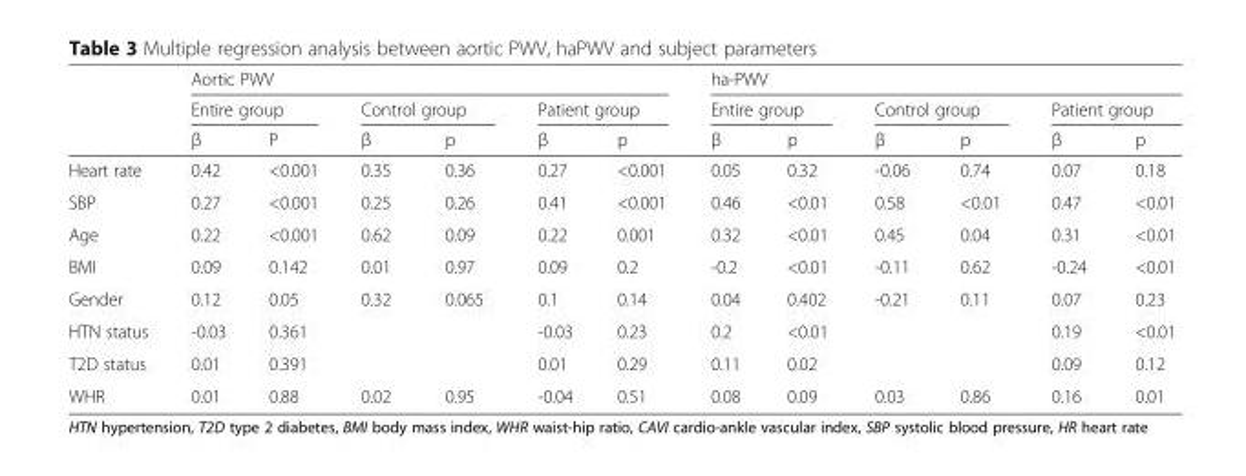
<table><thead><tr><td rowspan="3"></td><td colspan="6">Aortic PWV</td><td colspan="6">ha-PWV</td></tr><tr><td colspan="2">Entire group</td><td colspan="2">Control group</td><td colspan="2">Patient group</td><td colspan="2">Entire group</td><td colspan="2">Control group</td><td colspan="2">Patient group</td></tr><tr><td>β</td><td>P</td><td>β</td><td>p</td><td>β</td><td>p</td><td>β</td><td>p</td><td>β</td><td>p</td><td>β</td><td>p</td></tr></thead><tbody><tr><td>Heart rate</td><td>0.42</td><td>&lt;0.001</td><td>0.35</td><td>0.36</td><td>0.27</td><td>&lt;0.001</td><td>0.05</td><td>0.32</td><td>-0.06</td><td>0.74</td><td>0.07</td><td>0.18</td></tr><tr><td>SBP</td><td>0.27</td><td>&lt;0.001</td><td>0.25</td><td>0.26</td><td>0.41</td><td>&lt;0.001</td><td>0.46</td><td>&lt;0.01</td><td>0.58</td><td>&lt;0.01</td><td>0.47</td><td>&lt;0.01</td></tr><tr><td>Age</td><td>0.22</td><td>&lt;0.001</td><td>0.62</td><td>0.09</td><td>0.22</td><td>0.001</td><td>0.32</td><td>&lt;0.01</td><td>0.45</td><td>0.04</td><td>0.31</td><td>&lt;0.01</td></tr><tr><td>BMI</td><td>0.09</td><td>0.142</td><td>0.01</td><td>0.97</td><td>0.09</td><td>0.2</td><td>-0.2</td><td>&lt;0.01</td><td>-0.11</td><td>0.62</td><td>-0.24</td><td>&lt;0.01</td></tr><tr><td>Gender</td><td>0.12</td><td>0.05</td><td>0.32</td><td>0.065</td><td>0.1</td><td>0.14</td><td>0.04</td><td>0.402</td><td>-0.21</td><td>0.11</td><td>0.07</td><td>0.23</td></tr><tr><td>HTN status</td><td>-0.03</td><td>0.361</td><td></td><td></td><td>-0.03</td><td>0.23</td><td>0.2</td><td>&lt;0.01</td><td></td><td></td><td>0.19</td><td>&lt;0.01</td></tr><tr><td>T2D status</td><td>0.01</td><td>0.391</td><td></td><td></td><td>0.01</td><td>0.29</td><td>0.11</td><td>0.02</td><td></td><td></td><td>0.09</td><td>0.12</td></tr><tr><td>WHR</td><td>0.01</td><td>0.88</td><td>0.02</td><td>0.95</td><td>-0.04</td><td>0.51</td><td>0.08</td><td>0.09</td><td>0.03</td><td>0.86</td><td>0.16</td><td>0.01</td></tr></tbody></table>